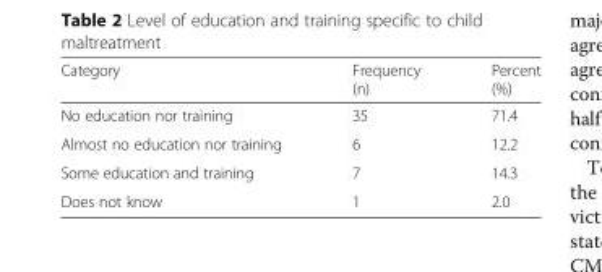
<table><thead><tr><td>Category</td><td>Frequency (n)</td><td>Percent (%)</td></tr></thead><tbody><tr><td>No education nor training</td><td>35</td><td>71.4</td></tr><tr><td>Almost no education nor training</td><td>6</td><td>12.2</td></tr><tr><td>Some education and training</td><td>7</td><td>14.3</td></tr><tr><td>Does not know</td><td>1</td><td>2.0</td></tr></tbody></table>